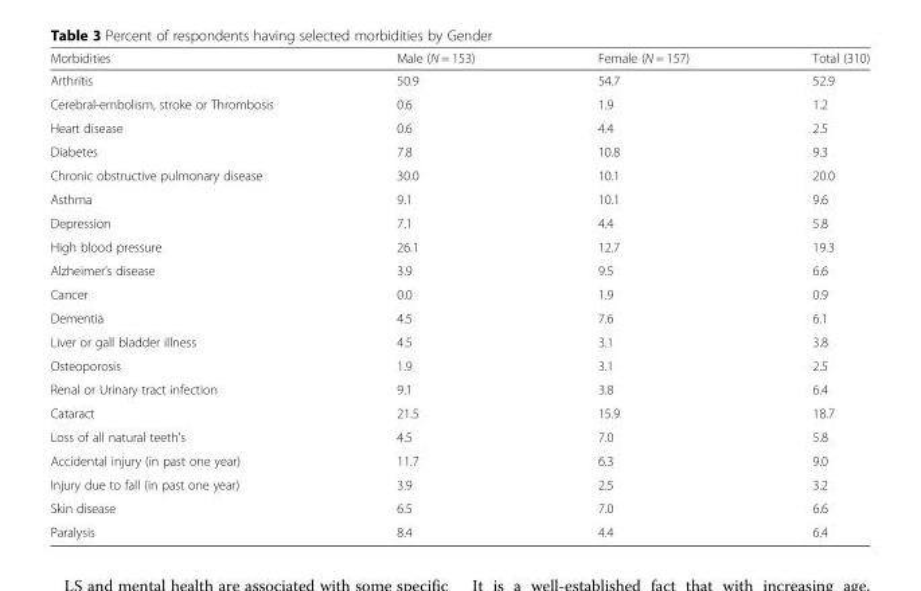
<table><thead><tr><td>Morbidities</td><td>Male (N = 153)</td><td>Female (N = 157)</td><td>Total (310)</td></tr></thead><tbody><tr><td>Arthritis</td><td>50.9</td><td>54.7</td><td>52.9</td></tr><tr><td>Cerebral-embolism, stroke or Thrombosis</td><td>0.6</td><td>1.9</td><td>1.2</td></tr><tr><td>Heart disease</td><td>0.6</td><td>4.4</td><td>2.5</td></tr><tr><td>Diabetes</td><td>7.8</td><td>10.8</td><td>9.3</td></tr><tr><td>Chronic obstructive pulmonary disease</td><td>30.0</td><td>10.1</td><td>20.0</td></tr><tr><td>Asthma</td><td>9.1</td><td>10.1</td><td>9.6</td></tr><tr><td>Depression</td><td>7.1</td><td>4.4</td><td>5.8</td></tr><tr><td>High blood pressure</td><td>26.1</td><td>12.7</td><td>19.3</td></tr><tr><td>Alzheimer’s disease</td><td>3.9</td><td>9.5</td><td>6.6</td></tr><tr><td>Cancer</td><td>0.0</td><td>1.9</td><td>0.9</td></tr><tr><td>Dementia</td><td>4.5</td><td>7.6</td><td>6.1</td></tr><tr><td>Liver or gall bladder illness</td><td>4.5</td><td>3.1</td><td>3.8</td></tr><tr><td>Osteoporosis</td><td>1.9</td><td>3.1</td><td>2.5</td></tr><tr><td>Renal or Urinary tract infection</td><td>9.1</td><td>3.8</td><td>6.4</td></tr><tr><td>Cataract</td><td>21.5</td><td>15.9</td><td>18.7</td></tr><tr><td>Loss of all natural teeth’s</td><td>4.5</td><td>7.0</td><td>5.8</td></tr><tr><td>Accidental injury (in past one year)</td><td>11.7</td><td>6.3</td><td>9.0</td></tr><tr><td>Injury due to fall (in past one year)</td><td>3.9</td><td>2.5</td><td>3.2</td></tr><tr><td>Skin disease</td><td>6.5</td><td>7.0</td><td>6.6</td></tr><tr><td>Paralysis</td><td>8.4</td><td>4.4</td><td>6.4</td></tr></tbody></table>